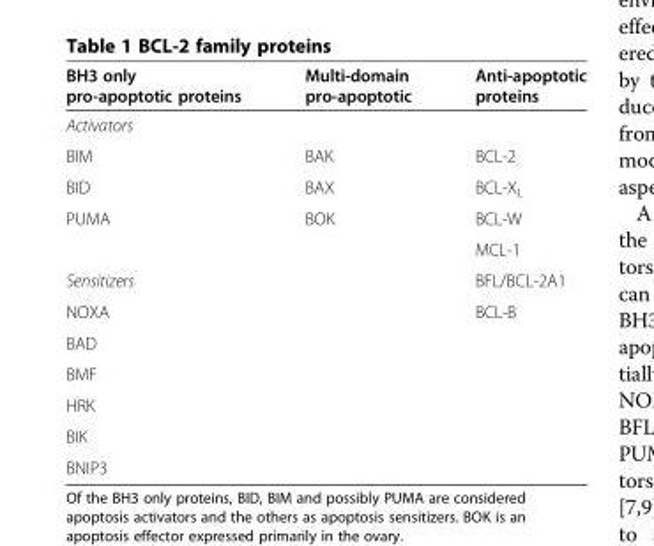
<table><thead><tr><td>BH3 only pro-apoptotic proteins</td><td>Multi-domain pro-apoptotic</td><td>Anti-apoptotic proteins</td></tr></thead><tbody><tr><td colspan="3">Activators</td></tr><tr><td>BIM</td><td>BAK</td><td>BCL-2</td></tr><tr><td>BID</td><td>BAX</td><td>BCL-X<sub>L</sub></td></tr><tr><td rowspan="2">PUMA</td><td>BOK</td><td>BCL-W</td></tr><tr><td></td><td>MCL-1</td></tr><tr><td>Sensitizers</td><td></td><td>BFL/BCL-2A1</td></tr><tr><td>NOXA</td><td></td><td>BCL-B</td></tr><tr><td colspan="3">BAD</td></tr><tr><td colspan="3">BMF</td></tr><tr><td colspan="3">HRK</td></tr><tr><td colspan="3">BIK</td></tr><tr><td>BNIP3</td><td></td><td></td></tr></tbody></table>